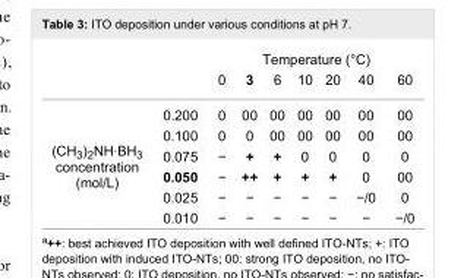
<table><thead><tr><td rowspan="2"></td><td rowspan="2"></td><td colspan="7">Temperature (°C)</td></tr><tr><td>0</td><td>3</td><td>6</td><td>10</td><td>20</td><td>40</td><td>60</td></tr></thead><tbody><tr><td rowspan="6">(CH<sub>3</sub>)<sub>2</sub>NH·BH<sub>3</sub> concentration (mol/L)</td><td>0.200</td><td>0</td><td>00</td><td>00</td><td>00</td><td>00</td><td>00</td><td>00</td></tr><tr><td>0.100</td><td>0</td><td>0</td><td>00</td><td>00</td><td>00</td><td>00</td><td>00</td></tr><tr><td>0.075</td><td>−</td><td>+</td><td>+</td><td>0</td><td>0</td><td>0</td><td>0</td></tr><tr><td>0.050</td><td>−</td><td>++</td><td>+</td><td>+</td><td>+</td><td>0</td><td>00</td></tr><tr><td>0.025</td><td>−</td><td>−</td><td>−</td><td>−</td><td>−</td><td>−/0</td><td>0</td></tr><tr><td>0.010</td><td>−</td><td>−</td><td>−</td><td>−</td><td>−</td><td>−</td><td>−/0</td></tr></tbody></table>